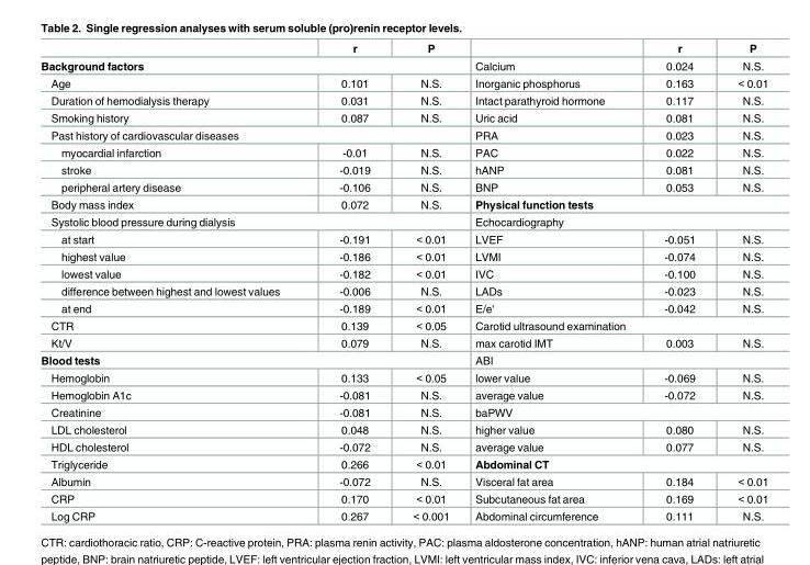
<table><thead><tr><td></td><td>r</td><td>P</td><td rowspan="2">Calcium</td><td rowspan="2">r 0.024</td><td rowspan="2">P N.S.</td></tr><tr><td colspan="3">Background factors</td></tr></thead><tbody><tr><td>Age</td><td>0.101</td><td>N.S.</td><td>Inorganic phosphorus</td><td>0.163</td><td>&lt; 0.01</td></tr><tr><td>Duration of hemodialysis therapy</td><td>0.031</td><td>N.S.</td><td>Intact parathyroid hormone</td><td>0.117</td><td>N.S.</td></tr><tr><td>Smoking history</td><td>0.087</td><td>N.S.</td><td>Uric acid</td><td>0.081</td><td>N.S.</td></tr><tr><td colspan="3">Past history of cardiovascular diseases</td><td>PRA</td><td>0.023</td><td>N.S.</td></tr><tr><td>myocardial infarction</td><td>-0.01</td><td>N.S.</td><td>PAC</td><td>0.022</td><td>N.S.</td></tr><tr><td>stroke</td><td>-0.019</td><td>N.S.</td><td>hANP</td><td>0.081</td><td>N.S.</td></tr><tr><td>peripheral artery disease</td><td>-0.106</td><td>N.S.</td><td>BNP</td><td>0.053</td><td>N.S.</td></tr><tr><td>Body mass index</td><td>0.072</td><td>N.S.</td><td colspan="3">Physical function tests</td></tr><tr><td colspan="3">Systolic blood pressure during dialysis</td><td colspan="3">Echocardiography</td></tr><tr><td>at start</td><td>-0.191</td><td>&lt; 0.01</td><td>LVEF</td><td>-0.051</td><td>N.S.</td></tr><tr><td>highest value</td><td>-0.186</td><td>&lt; 0.01</td><td>LVMI</td><td>-0.074</td><td>N.S.</td></tr><tr><td>lowest value</td><td>-0.182</td><td>&lt; 0.01</td><td>IVC</td><td>-0.100</td><td>N.S.</td></tr><tr><td>difference between highest and lowest values</td><td>-0.006</td><td>N.S.</td><td>LADs</td><td>-0.023</td><td>N.S.</td></tr><tr><td>at end</td><td>-0.189</td><td>&lt; 0.01</td><td>E/e&#x27;</td><td>-0.042</td><td>N.S.</td></tr><tr><td>CTR</td><td>0.139</td><td>&lt; 0.05</td><td colspan="3">Carotid ultrasound examination</td></tr><tr><td>Kt/V</td><td>0.079</td><td>N.S.</td><td>max carotid IMT</td><td>0.003</td><td>N.S.</td></tr><tr><td colspan="3">Blood tests</td><td colspan="3">ABI</td></tr><tr><td>Hemoglobin</td><td>0.133</td><td>&lt; 0.05</td><td>lower value</td><td>-0.069</td><td>N.S.</td></tr><tr><td>Hemoglobin A1c</td><td>-0.081</td><td>N.S.</td><td>average value</td><td>-0.072</td><td>N.S.</td></tr><tr><td>Creatinine</td><td>-0.081</td><td>N.S.</td><td colspan="3">baPWV</td></tr><tr><td>LDL cholesterol</td><td>0.048</td><td>N.S.</td><td>higher value</td><td>0.080</td><td>N.S.</td></tr><tr><td>HDL cholesterol</td><td>-0.072</td><td>N.S.</td><td>average value</td><td>0.077</td><td>N.S.</td></tr><tr><td>Triglyceride</td><td>0.266</td><td>&lt; 0.01</td><td colspan="3">Abdominal CT</td></tr><tr><td>Albumin</td><td>-0.072</td><td>N.S.</td><td>Visceral fat area</td><td>0.184</td><td>&lt; 0.01</td></tr><tr><td>CRP</td><td>0.170</td><td>&lt; 0.01</td><td>Subcutaneous fat area</td><td>0.169</td><td>&lt; 0.01</td></tr><tr><td>Log CRP</td><td>0.267</td><td>&lt; 0.001</td><td>Abdominal circumference</td><td>0.111</td><td>N.S.</td></tr></tbody></table>